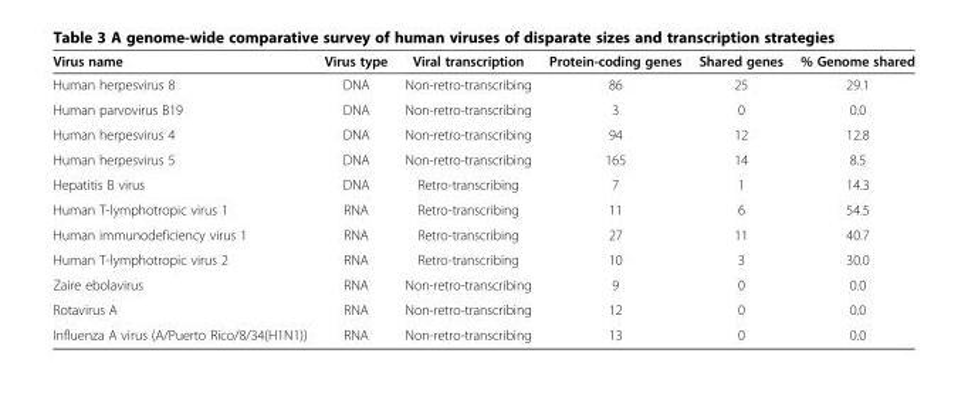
<table><thead><tr><td>Virus name</td><td>Virus type</td><td>Viral transcription</td><td>Protein-coding genes</td><td>Shared genes</td><td>% Genome shared</td></tr></thead><tbody><tr><td>Human herpesvirus 8</td><td>DNA</td><td>Non-retro-transcribing</td><td>86</td><td>25</td><td>29.1</td></tr><tr><td>Human parvovirus B19</td><td>DNA</td><td>Non-retro-transcribing</td><td>3</td><td>0</td><td>0.0</td></tr><tr><td>Human herpesvirus 4</td><td>DNA</td><td>Non-retro-transcribing</td><td>94</td><td>12</td><td>12.8</td></tr><tr><td>Human herpesvirus 5</td><td>DNA</td><td>Non-retro-transcribing</td><td>165</td><td>14</td><td>8.5</td></tr><tr><td>Hepatitis B virus</td><td>DNA</td><td>Retro-transcribing</td><td>7</td><td>1</td><td>14.3</td></tr><tr><td>Human T-lymphotropic virus 1</td><td>RNA</td><td>Retro-transcribing</td><td>11</td><td>6</td><td>54.5</td></tr><tr><td>Human immunodeficiency virus 1</td><td>RNA</td><td>Retro-transcribing</td><td>27</td><td>11</td><td>40.7</td></tr><tr><td>Human T-lymphotropic virus 2</td><td>RNA</td><td>Retro-transcribing</td><td>10</td><td>3</td><td>30.0</td></tr><tr><td>Zaire ebolavirus</td><td>RNA</td><td>Non-retro-transcribing</td><td>9</td><td>0</td><td>0.0</td></tr><tr><td>Rotavirus A</td><td>RNA</td><td>Non-retro-transcribing</td><td>12</td><td>0</td><td>0.0</td></tr><tr><td>Influenza A virus (A/Puerto Rico/8/34(H1N1))</td><td>RNA</td><td>Non-retro-transcribing</td><td>13</td><td>0</td><td>0.0</td></tr></tbody></table>